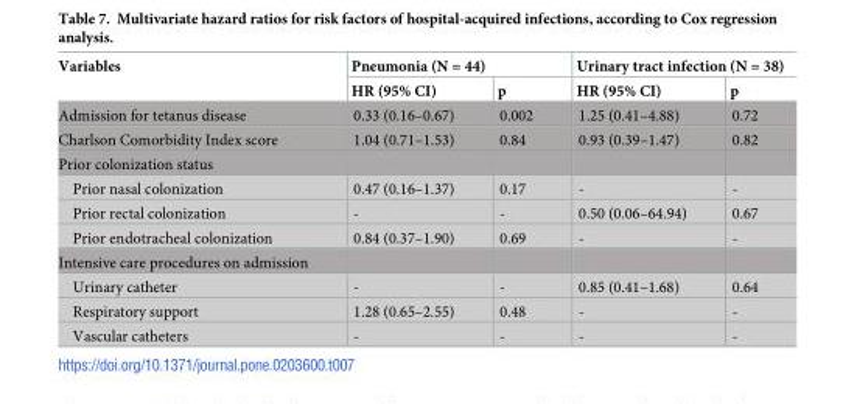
<table><thead><tr><td rowspan="2">Variables</td><td colspan="2">Pneumonia (N = 44)</td><td colspan="2">Urinary tract infection (N = 38)</td></tr><tr><td>HR (95% CI)</td><td>p</td><td>HR (95% CI)</td><td>p</td></tr></thead><tbody><tr><td>Admission for tetanus disease</td><td>0.33 (0.16–0.67)</td><td>0.002</td><td>1.25 (0.41–4.88)</td><td>0.72</td></tr><tr><td>Charlson Comorbidity Index score</td><td>1.04 (0.71–1.53)</td><td>0.84</td><td>0.93 (0.39–1.47)</td><td>0.82</td></tr><tr><td colspan="5">Prior colonization status</td></tr><tr><td>Prior nasal colonization</td><td>0.47 (0.16–1.37)</td><td>0.17</td><td>-</td><td>-</td></tr><tr><td>Prior rectal colonization</td><td>-</td><td>-</td><td>0.50 (0.06–64.94)</td><td>0.67</td></tr><tr><td>Prior endotracheal colonization</td><td>0.84 (0.37–1.90)</td><td>0.69</td><td>-</td><td>-</td></tr><tr><td colspan="5">Intensive care procedures on admission</td></tr><tr><td>Urinary catheter</td><td>-</td><td>-</td><td>0.85 (0.41–1.68)</td><td>0.64</td></tr><tr><td>Respiratory support</td><td>1.28 (0.65–2.55)</td><td>0.48</td><td>-</td><td>-</td></tr><tr><td>Vascular catheters</td><td>-</td><td>-</td><td>-</td><td>-</td></tr></tbody></table>